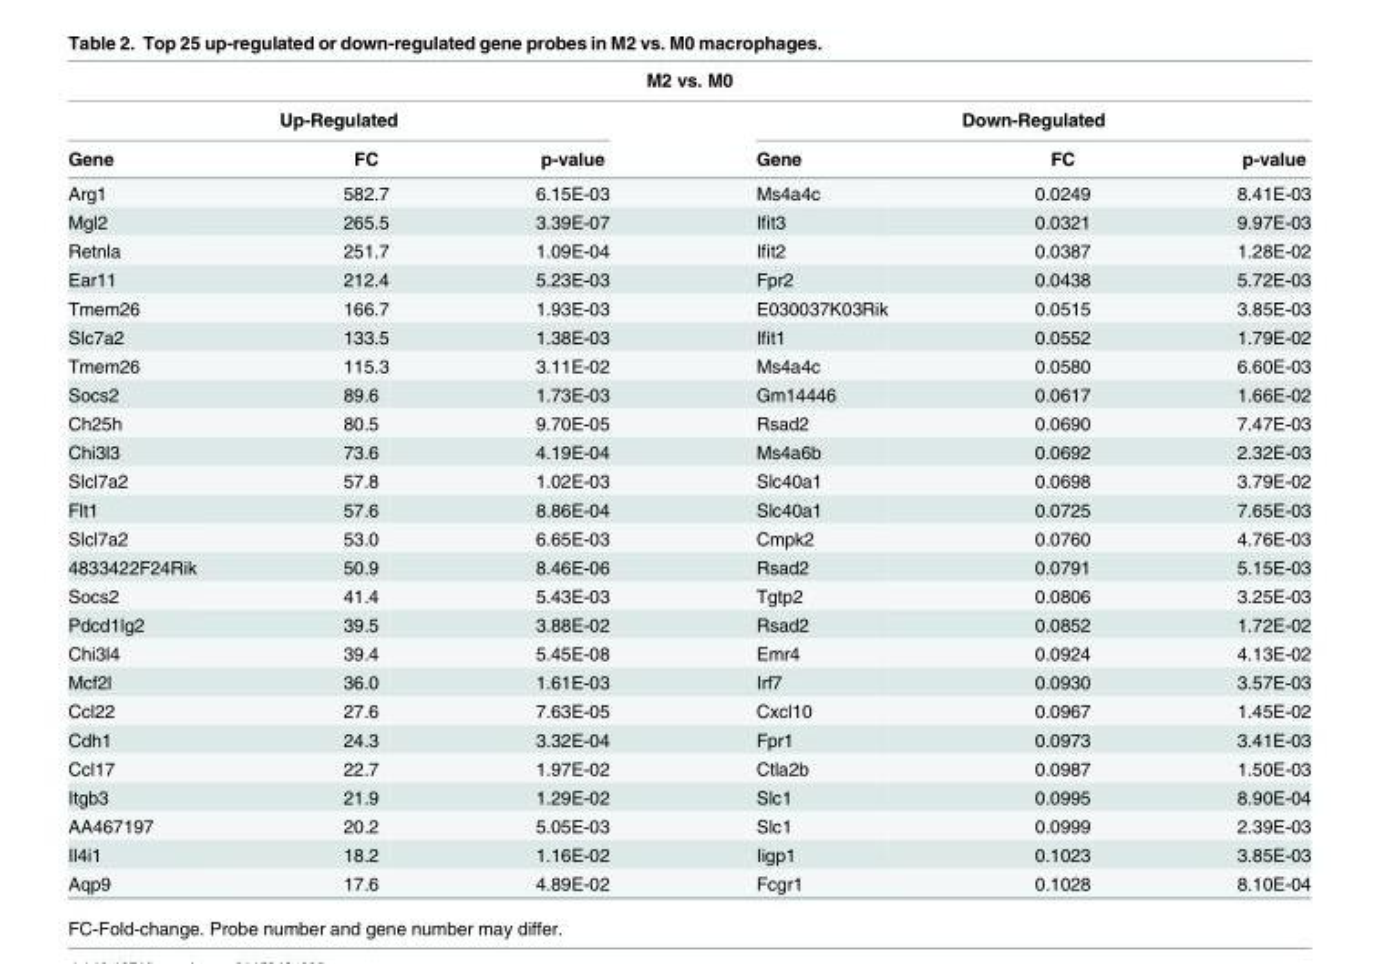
<table><thead><tr><td colspan="6">M2 vs. M0</td></tr><tr><td colspan="3">Up-Regulated</td><td colspan="3">Down-Regulated</td></tr><tr><td>Gene</td><td>FC</td><td>p-value</td><td>Gene</td><td>FC</td><td>p-value</td></tr></thead><tbody><tr><td>Arg1</td><td>582.7</td><td>6.15E-03</td><td>Ms4a4c</td><td>0.0249</td><td>8.41E-03</td></tr><tr><td>Mgl2</td><td>265.5</td><td>3.39E-07</td><td>Ifit3</td><td>0.0321</td><td>9.97E-03</td></tr><tr><td>Retnla</td><td>251.7</td><td>1.09E-04</td><td>Ifit2</td><td>0.0387</td><td>1.28E-02</td></tr><tr><td>Ear11</td><td>212.4</td><td>5.23E-03</td><td>Fpr2</td><td>0.0438</td><td>5.72E-03</td></tr><tr><td>Tmem26</td><td>166.7</td><td>1.93E-03</td><td>E030037K03Rik</td><td>0.0515</td><td>3.85E-03</td></tr><tr><td>Slc7a2</td><td>133.5</td><td>1.38E-03</td><td>Ifit1</td><td>0.0552</td><td>1.79E-02</td></tr><tr><td>Tmem26</td><td>115.3</td><td>3.11E-02</td><td>Ms4a4c</td><td>0.0580</td><td>6.60E-03</td></tr><tr><td>Socs2</td><td>89.6</td><td>1.73E-03</td><td>Gm14446</td><td>0.0617</td><td>1.66E-02</td></tr><tr><td>Ch25h</td><td>80.5</td><td>9.70E-05</td><td>Rsad2</td><td>0.0690</td><td>7.47E-03</td></tr><tr><td>Chi3l3</td><td>73.6</td><td>4.19E-04</td><td>Ms4a6b</td><td>0.0692</td><td>2.32E-03</td></tr><tr><td>Slcl7a2</td><td>57.8</td><td>1.02E-03</td><td>Slc40a1</td><td>0.0698</td><td>3.79E-02</td></tr><tr><td>Flt1</td><td>57.6</td><td>8.86E-04</td><td>Slc40a1</td><td>0.0725</td><td>7.65E-03</td></tr><tr><td>Slcl7a2</td><td>53.0</td><td>6.65E-03</td><td>Cmpk2</td><td>0.0760</td><td>4.76E-03</td></tr><tr><td>4833422F24Rik</td><td>50.9</td><td>8.46E-06</td><td>Rsad2</td><td>0.0791</td><td>5.15E-03</td></tr><tr><td>Socs2</td><td>41.4</td><td>5.43E-03</td><td>Tgtp2</td><td>0.0806</td><td>3.25E-03</td></tr><tr><td>Pdcd1lg2</td><td>39.5</td><td>3.88E-02</td><td>Rsad2</td><td>0.0852</td><td>1.72E-02</td></tr><tr><td>Chi3l4</td><td>39.4</td><td>5.45E-08</td><td>Emr4</td><td>0.0924</td><td>4.13E-02</td></tr><tr><td>Mcf2l</td><td>36.0</td><td>1.61E-03</td><td>Irf7</td><td>0.0930</td><td>3.57E-03</td></tr><tr><td>Ccl22</td><td>27.6</td><td>7.63E-05</td><td>Cxcl10</td><td>0.0967</td><td>1.45E-02</td></tr><tr><td>Cdh1</td><td>24.3</td><td>3.32E-04</td><td>Fpr1</td><td>0.0973</td><td>3.41E-03</td></tr><tr><td>Ccl17</td><td>22.7</td><td>1.97E-02</td><td>Ctla2b</td><td>0.0987</td><td>1.50E-03</td></tr><tr><td>Itgb3</td><td>21.9</td><td>1.29E-02</td><td>Slc1</td><td>0.0995</td><td>8.90E-04</td></tr><tr><td>AA467197</td><td>20.2</td><td>5.05E-03</td><td>Slc1</td><td>0.0999</td><td>2.39E-03</td></tr><tr><td>Il4i1</td><td>18.2</td><td>1.16E-02</td><td>Iigp1</td><td>0.1023</td><td>3.85E-03</td></tr><tr><td>Aqp9</td><td>17.6</td><td>4.89E-02</td><td>Fcgr1</td><td>0.1028</td><td>8.10E-04</td></tr></tbody></table>